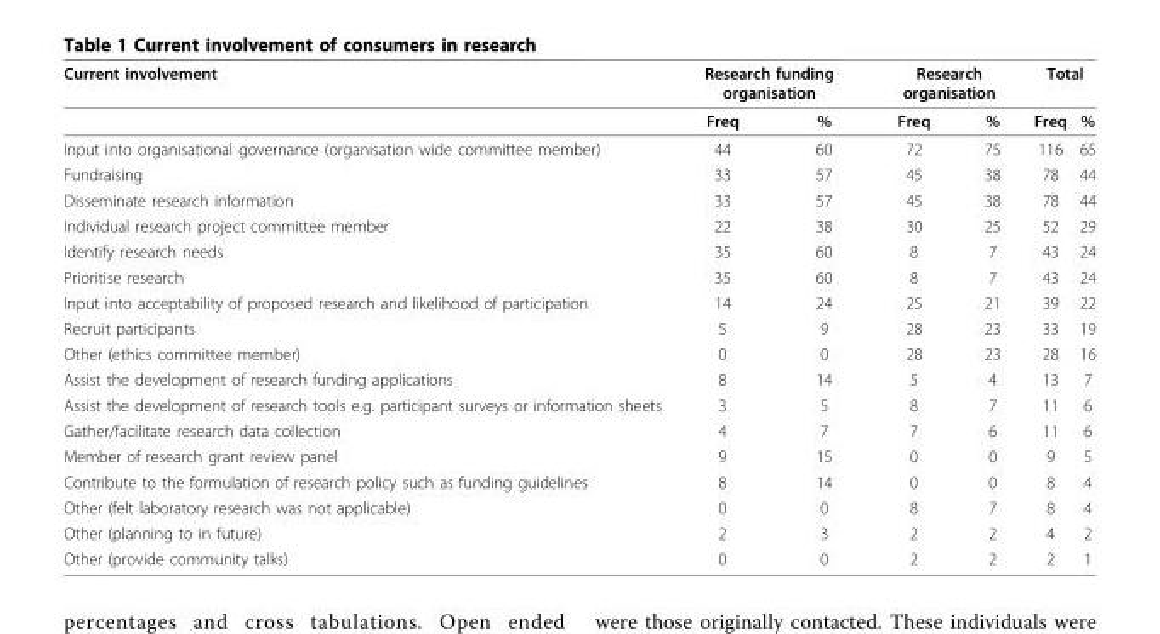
<table><thead><tr><td rowspan="2">Current involvement</td><td colspan="2">Research funding organisation</td><td colspan="2">Research organisation</td><td colspan="2">Total</td></tr><tr><td>Freq</td><td>%</td><td>Freq</td><td>%</td><td>Freq</td><td>%</td></tr></thead><tbody><tr><td>Input into organisational governance (organisation wide committee member)</td><td>44</td><td>60</td><td>72</td><td>75</td><td>116</td><td>65</td></tr><tr><td>Fundraising</td><td>33</td><td>57</td><td>45</td><td>38</td><td>78</td><td>44</td></tr><tr><td>Disseminate research information</td><td>33</td><td>57</td><td>45</td><td>38</td><td>78</td><td>44</td></tr><tr><td>Individual research project committee member</td><td>22</td><td>38</td><td>30</td><td>25</td><td>52</td><td>29</td></tr><tr><td>Identify research needs</td><td>35</td><td>60</td><td>8</td><td>7</td><td>43</td><td>24</td></tr><tr><td>Prioritise research</td><td>35</td><td>60</td><td>8</td><td>7</td><td>43</td><td>24</td></tr><tr><td>Input into acceptability of proposed research and likelihood of participation</td><td>14</td><td>24</td><td>25</td><td>21</td><td>39</td><td>22</td></tr><tr><td>Recruit participants</td><td>5</td><td>9</td><td>28</td><td>23</td><td>33</td><td>19</td></tr><tr><td>Other (ethics committee member)</td><td>0</td><td>0</td><td>28</td><td>23</td><td>28</td><td>16</td></tr><tr><td>Assist the development of research funding applications</td><td>8</td><td>14</td><td>5</td><td>4</td><td>13</td><td>7</td></tr><tr><td>Assist the development of research tools e.g. participant surveys or information sheets</td><td>3</td><td>5</td><td>8</td><td>7</td><td>11</td><td>6</td></tr><tr><td>Gather/facilitate research data collection</td><td>4</td><td>7</td><td>7</td><td>6</td><td>11</td><td>6</td></tr><tr><td>Member of research grant review panel</td><td>9</td><td>15</td><td>0</td><td>0</td><td>9</td><td>5</td></tr><tr><td>Contribute to the formulation of research policy such as funding guidelines</td><td>8</td><td>14</td><td>0</td><td>0</td><td>8</td><td>4</td></tr><tr><td>Other (felt laboratory research was not applicable)</td><td>0</td><td>0</td><td>8</td><td>7</td><td>8</td><td>4</td></tr><tr><td>Other (planning to in future)</td><td>2</td><td>3</td><td>2</td><td>2</td><td>4</td><td>2</td></tr><tr><td>Other (provide community talks)</td><td>0</td><td>0</td><td>2</td><td>2</td><td>2</td><td>1</td></tr></tbody></table>